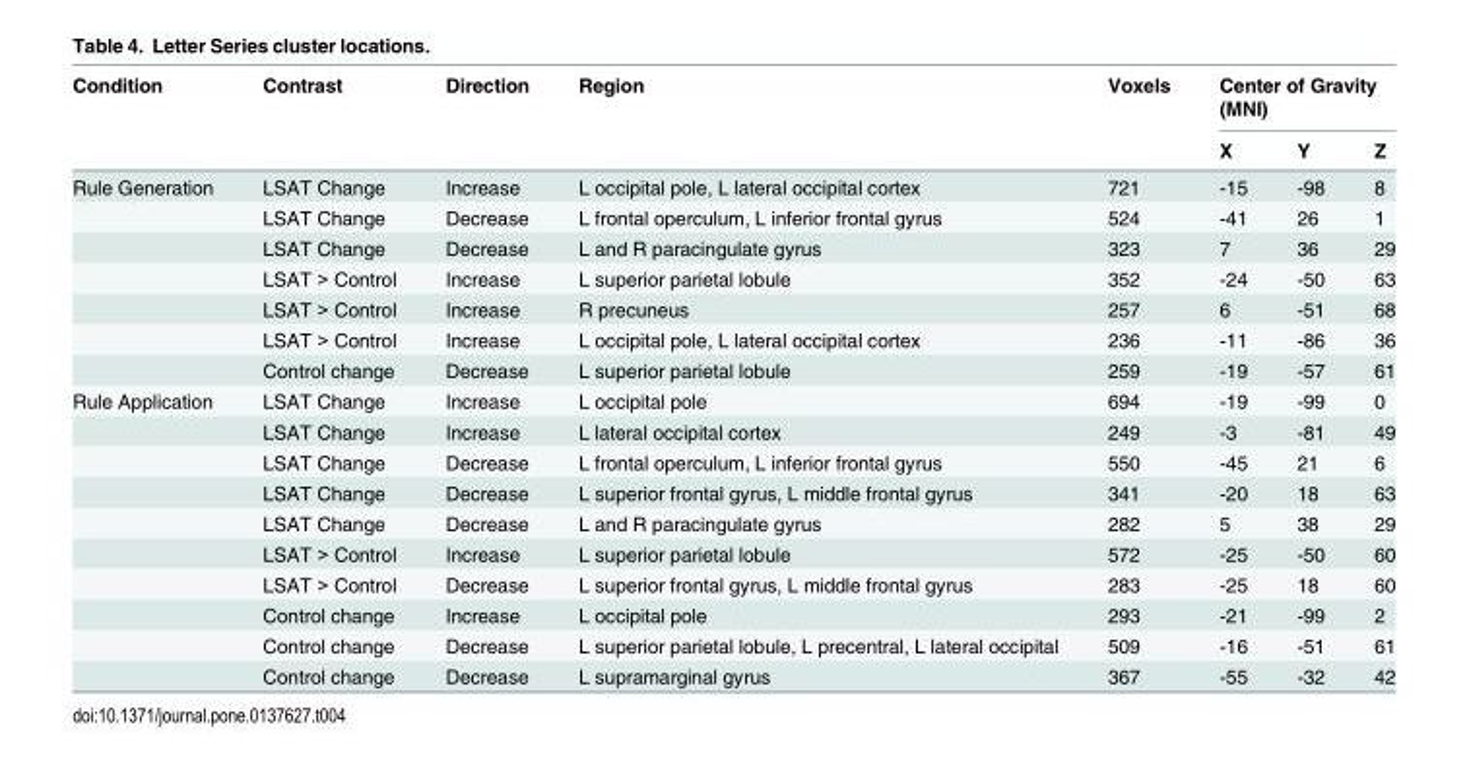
<table><thead><tr><td rowspan="2">Condition</td><td rowspan="2">Contrast</td><td rowspan="2">Direction</td><td rowspan="2">Region</td><td rowspan="2">Voxels</td><td colspan="3">Center of Gravity (MNI)</td></tr><tr><td>X</td><td>Y</td><td>Z</td></tr></thead><tbody><tr><td rowspan="7">Rule Generation</td><td>LSAT Change</td><td>Increase</td><td>L occipital pole, L lateral occipital cortex</td><td>721</td><td>-15</td><td>-98</td><td>8</td></tr><tr><td>LSAT Change</td><td>Decrease</td><td>L frontal operculum, L inferior frontal gyrus</td><td>524</td><td>-41</td><td>26</td><td>1</td></tr><tr><td>LSAT Change</td><td>Decrease</td><td>L and R paracingulate gyrus</td><td>323</td><td>7</td><td>36</td><td>29</td></tr><tr><td>LSAT &gt; Control</td><td>Increase</td><td>L superior parietal lobule</td><td>352</td><td>-24</td><td>-50</td><td>63</td></tr><tr><td>LSAT &gt; Control</td><td>Increase</td><td>R precuneus</td><td>257</td><td>6</td><td>-51</td><td>68</td></tr><tr><td>LSAT &gt; Control</td><td>Increase</td><td>L occipital pole, L lateral occipital cortex</td><td>236</td><td>-11</td><td>-86</td><td>36</td></tr><tr><td>Control change</td><td>Decrease</td><td>L superior parietal lobule</td><td>259</td><td>-19</td><td>-57</td><td>61</td></tr><tr><td rowspan="10">Rule Application</td><td>LSAT Change</td><td>Increase</td><td>L occipital pole</td><td>694</td><td>-19</td><td>-99</td><td>0</td></tr><tr><td>LSAT Change</td><td>Increase</td><td>L lateral occipital cortex</td><td>249</td><td>-3</td><td>-81</td><td>49</td></tr><tr><td>LSAT Change</td><td>Decrease</td><td>L frontal operculum, L inferior frontal gyrus</td><td>550</td><td>-45</td><td>21</td><td>6</td></tr><tr><td>LSAT Change</td><td>Decrease</td><td>L superior frontal gyrus, L middle frontal gyrus</td><td>341</td><td>-20</td><td>18</td><td>63</td></tr><tr><td>LSAT Change</td><td>Decrease</td><td>L and R paracingulate gyrus</td><td>282</td><td>5</td><td>38</td><td>29</td></tr><tr><td>LSAT &gt; Control</td><td>Increase</td><td>L superior parietal lobule</td><td>572</td><td>-25</td><td>-50</td><td>60</td></tr><tr><td>LSAT &gt; Control</td><td>Decrease</td><td>L superior frontal gyrus, L middle frontal gyrus</td><td>283</td><td>-25</td><td>18</td><td>60</td></tr><tr><td>Control change</td><td>Increase</td><td>L occipital pole</td><td>293</td><td>-21</td><td>-99</td><td>2</td></tr><tr><td>Control change</td><td>Decrease</td><td>L superior parietal lobule, L precentral, L lateral occipital</td><td>509</td><td>-16</td><td>-51</td><td>61</td></tr><tr><td>Control change</td><td>Decrease</td><td>L supramarginal gyrus</td><td>367</td><td>-55</td><td>-32</td><td>42</td></tr></tbody></table>